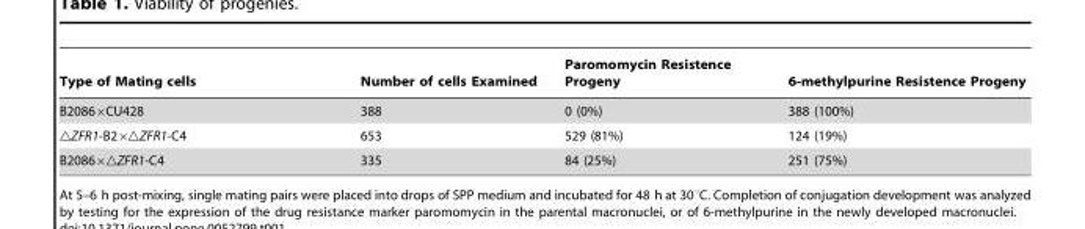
<table><thead><tr><td>Type of Mating cells</td><td>Number of cells Examined</td><td>Paromomycin Resistence Progeny</td><td>6-methylpurine Resistence Progeny</td></tr></thead><tbody><tr><td>B2086×CU428</td><td>388</td><td>0 (0%)</td><td>388 (100%)</td></tr><tr><td>△ZFR1-B2×△ZFR1-C4</td><td>653</td><td>529 (81%)</td><td>124 (19%)</td></tr><tr><td>B2086×△ZFR1-C4</td><td>335</td><td>84 (25%)</td><td>251 (75%)</td></tr></tbody></table>